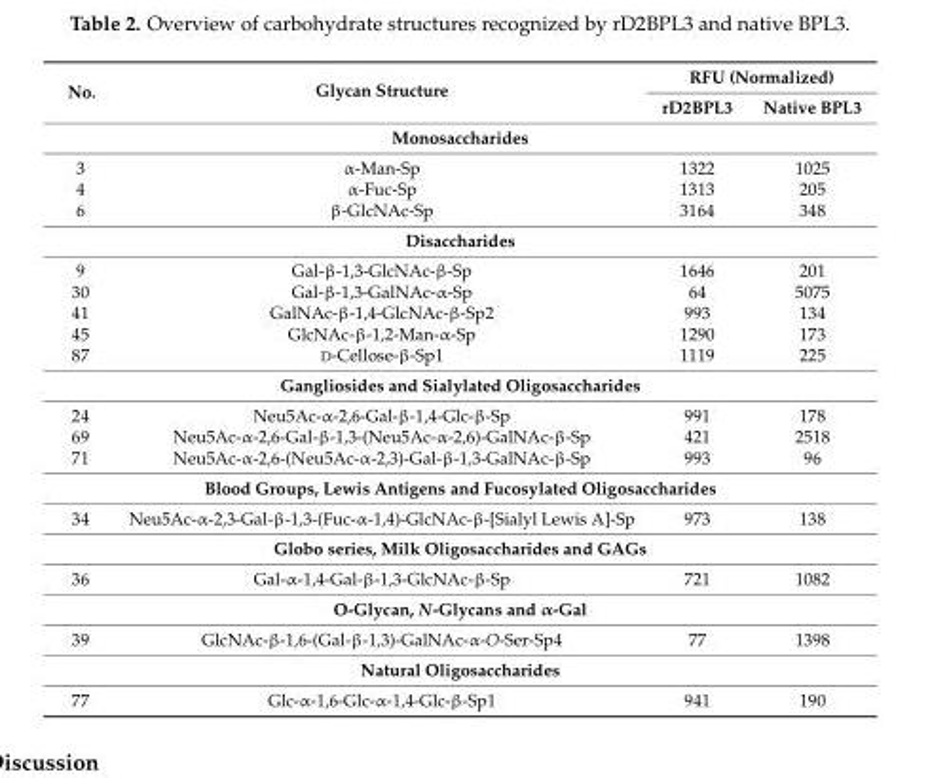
<table><thead><tr><td rowspan="2">No.</td><td rowspan="2">Glycan Structure</td><td colspan="2">RFU (Normalized)</td></tr><tr><td>rD2BPL3</td><td>Native BPL3</td></tr></thead><tbody><tr><td colspan="4">Monosaccharides</td></tr><tr><td>3</td><td>α-Man-Sp</td><td>1322</td><td>1025</td></tr><tr><td>4</td><td>α-Fuc-Sp</td><td>1313</td><td>205</td></tr><tr><td>6</td><td>β-GlcNAc-Sp</td><td>3164</td><td>348</td></tr><tr><td colspan="4">Disaccharides</td></tr><tr><td>9</td><td>Gal-β-1,3-GlcNAc-β-Sp</td><td>1646</td><td>201</td></tr><tr><td>30</td><td>Gal-β-1,3-GalNAc-α-Sp</td><td>64</td><td>5075</td></tr><tr><td>41</td><td>GalNAc-β-1,4-GlcNAc-β-Sp2</td><td>993</td><td>134</td></tr><tr><td>45</td><td>GlcNAc-β-1,2-Man-α-Sp</td><td>1290</td><td>173</td></tr><tr><td>87</td><td>D-Cellose-β-Sp1</td><td>1119</td><td>225</td></tr><tr><td colspan="4">Gangliosides and Sialylated Oligosaccharides</td></tr><tr><td>24</td><td>Neu5Ac-α-2,6-Gal-β-1,4-Glc-β-Sp</td><td>991</td><td>178</td></tr><tr><td>69</td><td>Neu5Ac-α-2,6-Gal-β-1,3-(Neu5Ac-α-2,6)-GalNAc-β-Sp</td><td>421</td><td>2518</td></tr><tr><td>71</td><td>Neu5Ac-α-2,6-(Neu5Ac-α-2,3)-Gal-β-1,3-GalNAc-β-Sp</td><td>993</td><td>96</td></tr><tr><td colspan="4">Blood Groups, Lewis Antigens and Fucosylated Oligosaccharides</td></tr><tr><td>34</td><td>Neu5Ac-α-2,3-Gal-β-1,3-(Fuc-α-1,4)-GlcNAc-β-[Sialyl Lewis A]-Sp</td><td>973</td><td>138</td></tr><tr><td colspan="4">Globo series, Milk Oligosaccharides and GAGs</td></tr><tr><td>36</td><td>Gal-α-1,4-Gal-β-1,3-GlcNAc-β-Sp</td><td>721</td><td>1082</td></tr><tr><td colspan="4">O-Glycan, N-Glycans and α-Gal</td></tr><tr><td>39</td><td>GlcNAc-β-1,6-(Gal-β-1,3)-GalNAc-α-O-Ser-Sp4</td><td>77</td><td>1398</td></tr><tr><td colspan="4">Natural Oligosaccharides</td></tr><tr><td>77</td><td>Glc-α-1,6-Glc-α-1,4-Glc-β-Sp1</td><td>941</td><td>190</td></tr></tbody></table>